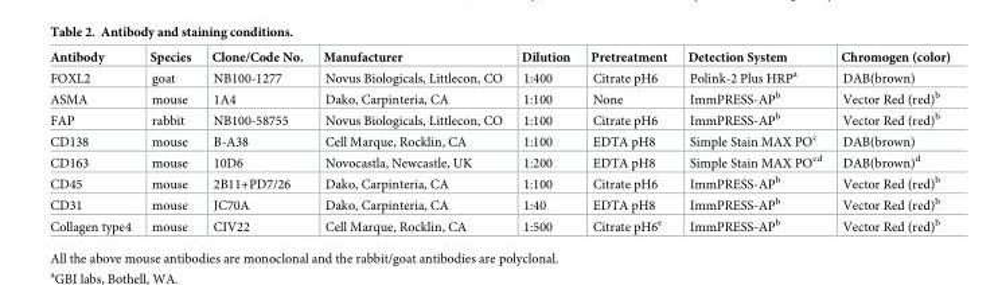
<table><thead><tr><td>Antibody</td><td>Species</td><td>Clone/Code No.</td><td>Manufacturer</td><td>Dilution</td><td>Pretreatment</td><td>Detection System</td><td>Chromogen (color)</td></tr></thead><tbody><tr><td>FOXL2</td><td>goat</td><td>NB100-1277</td><td>Novus Biologicals, Littlecon, CO</td><td>1:400</td><td>Citrate pH6</td><td>Polink-2 Plus HRP<sup>a</sup></td><td>DAB(brown)</td></tr><tr><td>ASMA</td><td>mouse</td><td>1A4</td><td>Dako, Carpinteria, CA</td><td>1:100</td><td>None</td><td>ImmPRESS-AP<sup>b</sup></td><td>Vector Red (red)<sup>b</sup></td></tr><tr><td>FAP</td><td>rabbit</td><td>NB100-58755</td><td>Novus Biologicals, Littlecon, CO</td><td>1:100</td><td>Citrate pH6</td><td>ImmPRESS-AP<sup>b</sup></td><td>Vector Red (red)<sup>b</sup></td></tr><tr><td>CD138</td><td>mouse</td><td>B-A38</td><td>Cell Marque, Rocklin, CA</td><td>1:100</td><td>EDTA pH8</td><td>Simple Stain MAX PO<sup>c</sup></td><td>DAB(brown)</td></tr><tr><td>CD163</td><td>mouse</td><td>10D6</td><td>Novocastla, Newcastle, UK</td><td>1:200</td><td>EDTA pH8</td><td>Simple Stain MAX PO<sup>cd</sup></td><td>DAB(brown)<sup>d</sup></td></tr><tr><td>CD45</td><td>mouse</td><td>2B11+PD7/26</td><td>Dako, Carpinteria, CA</td><td>1:100</td><td>Citrate pH6</td><td>ImmPRESS-AP<sup>b</sup></td><td>Vector Red (red)<sup>b</sup></td></tr><tr><td>CD31</td><td>mouse</td><td>JC70A</td><td>Dako, Carpinteria, CA</td><td>1:40</td><td>EDTA pH8</td><td>ImmPRESS-AP<sup>b</sup></td><td>Vector Red (red)<sup>b</sup></td></tr><tr><td>Collagen type4</td><td>mouse</td><td>CIV22</td><td>Cell Marque, Rocklin, CA</td><td>1:500</td><td>Citrate pH6<sup>e</sup></td><td>ImmPRESS-AP<sup>b</sup></td><td>Vector Red (red)<sup>b</sup></td></tr></tbody></table>